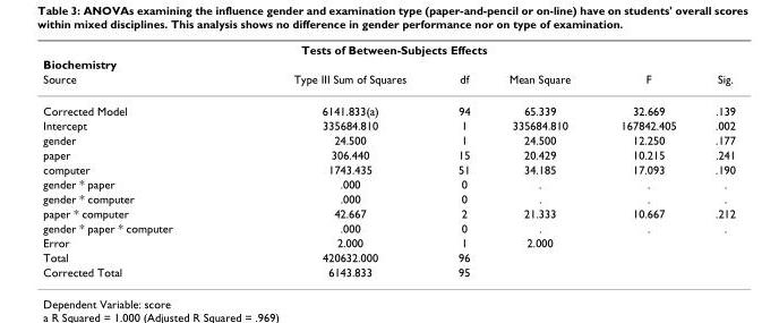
<table><thead><tr><td rowspan="2" colspan="6">Tests of Between-Subjects Effects Biochemistry</td></tr><tr></tr><tr><td>Source</td><td>Type III Sum of Squares</td><td>df</td><td>Mean Square</td><td>F</td><td>Sig.</td></tr></thead><tbody><tr><td>Corrected Model</td><td>6141.833(a)</td><td>94</td><td>65.339</td><td>32.669</td><td>.139</td></tr><tr><td>Intercept</td><td>335684.810</td><td>1</td><td>335684.810</td><td>167842.405</td><td>.002</td></tr><tr><td>gender</td><td>24.500</td><td>1</td><td>24.500</td><td>12.250</td><td>.177</td></tr><tr><td>paper</td><td>306.440</td><td>15</td><td>20.429</td><td>10.215</td><td>.241</td></tr><tr><td>computer</td><td>1743.435</td><td>51</td><td>34.185</td><td>17.093</td><td>.190</td></tr><tr><td>gender * paper</td><td>.000</td><td>0</td><td>.</td><td>.</td><td>.</td></tr><tr><td>gender * computer</td><td>.000</td><td>0</td><td>.</td><td>.</td><td>.</td></tr><tr><td>paper * computer</td><td>42.667</td><td>2</td><td>21.333</td><td>10.667</td><td>.212</td></tr><tr><td>gender * paper * computer</td><td>.000</td><td>0</td><td>.</td><td>.</td><td>.</td></tr><tr><td>Error</td><td>2.000</td><td>1</td><td>2.000</td><td></td><td></td></tr><tr><td>Total</td><td>420632.000</td><td>96</td><td></td><td></td><td></td></tr><tr><td>Corrected Total</td><td>6143.833</td><td>95</td><td></td><td></td><td></td></tr></tbody></table>